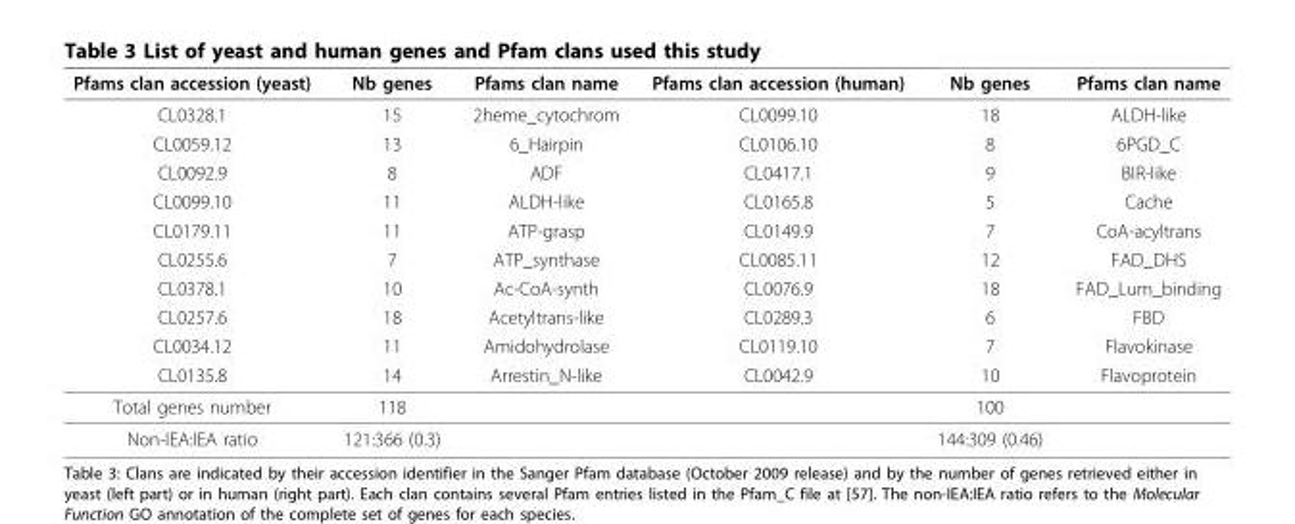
<table><thead><tr><td>Pfams clan accession (yeast)</td><td>Nb genes</td><td>Pfams clan name</td><td>Pfams clan accession (human)</td><td>Nb genes</td><td>Pfams clan name</td></tr></thead><tbody><tr><td>CL0328.1</td><td>15</td><td>2heme_cytochrom</td><td>CL0099.10</td><td>18</td><td>ALDH-like</td></tr><tr><td>CL0059.12</td><td>13</td><td>6_Hairpin</td><td>CL0106.10</td><td>8</td><td>6PGD_C</td></tr><tr><td>CL0092.9</td><td>8</td><td>ADF</td><td>CL0417.1</td><td>9</td><td>BIR-like</td></tr><tr><td>CL0099.10</td><td>11</td><td>ALDH-like</td><td>CL0165.8</td><td>5</td><td>Cache</td></tr><tr><td>CL0179.11</td><td>11</td><td>ATP-grasp</td><td>CL0149.9</td><td>7</td><td>CoA-acyltrans</td></tr><tr><td>CL0255.6</td><td>7</td><td>ATP_synthase</td><td>CL0085.11</td><td>12</td><td>FAD_DHS</td></tr><tr><td>CL0378.1</td><td>10</td><td>Ac-CoA-synth</td><td>CL0076.9</td><td>18</td><td>FAD_Lum_binding</td></tr><tr><td>CL0257.6</td><td>18</td><td>Acetyltrans-like</td><td>CL0289.3</td><td>6</td><td>FBD</td></tr><tr><td>CL0034.12</td><td>11</td><td>Amidohydrolase</td><td>CL0119.10</td><td>7</td><td>Flavokinase</td></tr><tr><td>CL0135.8</td><td>14</td><td>Arrestin_N-like</td><td>CL0042.9</td><td>10</td><td>Flavoprotein</td></tr><tr><td>Total genes number</td><td>118</td><td></td><td></td><td>100</td><td></td></tr><tr><td>Non-IEA:IEA ratio</td><td>121:366 (0.3)</td><td></td><td></td><td>144:309 (0.46)</td><td></td></tr></tbody></table>